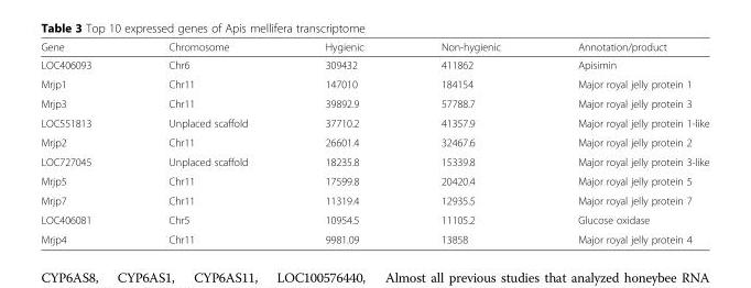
<table><thead><tr><td>Gene</td><td>Chromosome</td><td>Hygienic</td><td>Non-hygienic</td><td>Annotation/product</td></tr></thead><tbody><tr><td>LOC406093</td><td>Chr6</td><td>309432</td><td>411862</td><td>Apisimin</td></tr><tr><td>Mrjp1</td><td>Chr11</td><td>147010</td><td>184154</td><td>Major royal jelly protein 1</td></tr><tr><td>Mrjp3</td><td>Chr11</td><td>39892.9</td><td>57788.7</td><td>Major royal jelly protein 3</td></tr><tr><td>LOC551813</td><td>Unplaced scaffold</td><td>37710.2</td><td>41357.9</td><td>Major royal jelly protein 1-like</td></tr><tr><td>Mrjp2</td><td>Chr11</td><td>26601.4</td><td>32467.6</td><td>Major royal jelly protein 2</td></tr><tr><td>LOC727045</td><td>Unplaced scaffold</td><td>18235.8</td><td>15339.8</td><td>Major royal jelly protein 3-like</td></tr><tr><td>Mrjp5</td><td>Chr11</td><td>17599.8</td><td>20420.4</td><td>Major royal jelly protein 5</td></tr><tr><td>Mrjp7</td><td>Chr11</td><td>11319.4</td><td>12935.5</td><td>Major royal jelly protein 7</td></tr><tr><td>LOC406081</td><td>Chr5</td><td>10954.5</td><td>11105.2</td><td>Glucose oxidase</td></tr><tr><td>Mrjp4</td><td>Chr11</td><td>9981.09</td><td>13858</td><td>Major royal jelly protein 4</td></tr></tbody></table>